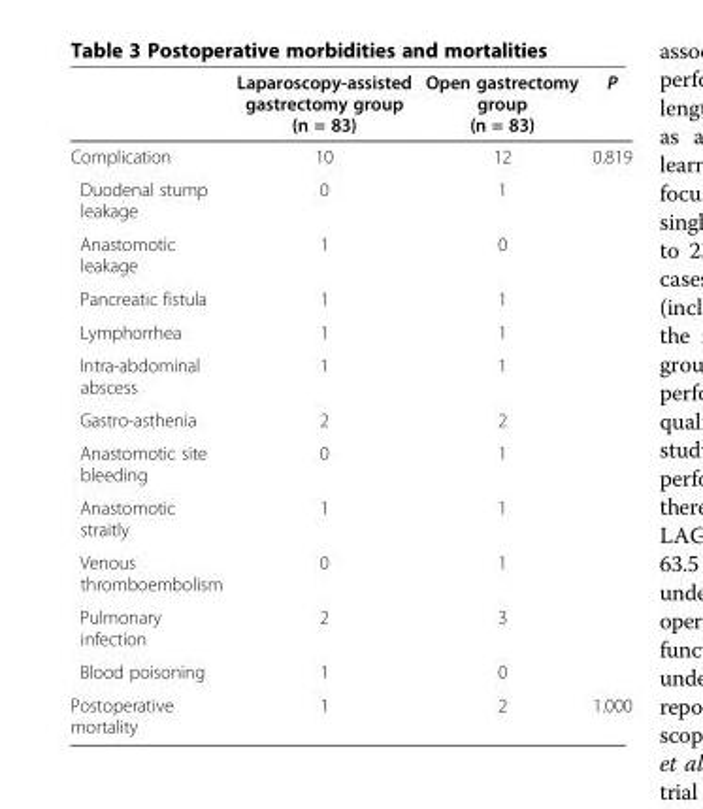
<table><thead><tr><td></td><td>Laparoscopy-assisted gastrectomy group (n = 83)</td><td>Open gastrectomy group (n = 83)</td><td>P</td></tr></thead><tbody><tr><td>Complication</td><td>10</td><td>12</td><td>0.819</td></tr><tr><td>Duodenal stump leakage</td><td>0</td><td>1</td><td></td></tr><tr><td>Anastomotic leakage</td><td>1</td><td>0</td><td></td></tr><tr><td>Pancreatic fistula</td><td>1</td><td>1</td><td></td></tr><tr><td>Lymphorrhea</td><td>1</td><td>1</td><td></td></tr><tr><td>Intra-abdominal abscess</td><td>1</td><td>1</td><td></td></tr><tr><td>Gastro-asthenia</td><td>2</td><td>2</td><td></td></tr><tr><td>Anastomotic site bleeding</td><td>0</td><td>1</td><td></td></tr><tr><td>Anastomotic straitly</td><td>1</td><td>1</td><td></td></tr><tr><td>Venous thromboembolism</td><td>0</td><td>1</td><td></td></tr><tr><td>Pulmonary infection</td><td>2</td><td>3</td><td></td></tr><tr><td>Blood poisoning</td><td>1</td><td>0</td><td></td></tr><tr><td>Postoperative mortality</td><td>1</td><td>2</td><td>1.000</td></tr></tbody></table>